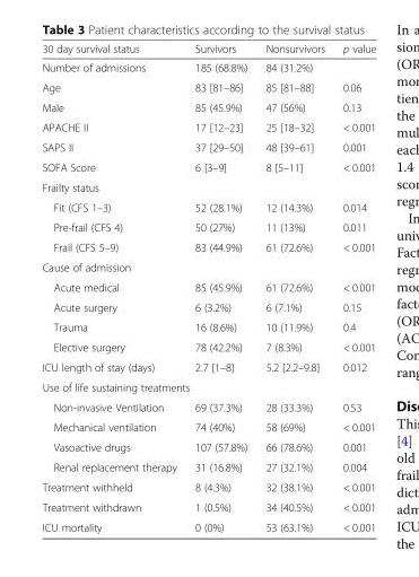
<table><thead><tr><td>30 day survival status</td><td>Survivors</td><td>Nonsurvivors</td><td>p value</td></tr></thead><tbody><tr><td>Number of admissions</td><td>185 (68.8%)</td><td>84 (31.2%)</td><td></td></tr><tr><td>Age</td><td>83 [81–86]</td><td>85 [81–88]</td><td>0.06</td></tr><tr><td>Male</td><td>85 (45.9%)</td><td>47 (56%)</td><td>0.13</td></tr><tr><td>APACHE II</td><td>17 [12–23]</td><td>25 [18–32]</td><td>&lt; 0.001</td></tr><tr><td>SAPS II</td><td>37 [29–50]</td><td>48 [39–61]</td><td>0.001</td></tr><tr><td>SOFA Score</td><td>6 [3–9]</td><td>8 [5–11]</td><td>&lt; 0.001</td></tr><tr><td colspan="4">Frailty status</td></tr><tr><td>Fit (CFS 1–3)</td><td>52 (28.1%)</td><td>12 (14.3%)</td><td>0.014</td></tr><tr><td>Pre-frail (CFS 4)</td><td>50 (27%)</td><td>11 (13%)</td><td>0.011</td></tr><tr><td>Frail (CFS 5–9)</td><td>83 (44.9%)</td><td>61 (72.6%)</td><td>&lt; 0.001</td></tr><tr><td colspan="4">Cause of admission</td></tr><tr><td>Acute medical</td><td>85 (45.9%)</td><td>61 (72.6%)</td><td>&lt; 0.001</td></tr><tr><td>Acute surgery</td><td>6 (3.2%)</td><td>6 (7.1%)</td><td>0.15</td></tr><tr><td>Trauma</td><td>16 (8.6%)</td><td>10 (11.9%)</td><td>0.4</td></tr><tr><td>Elective surgery</td><td>78 (42.2%)</td><td>7 (8.3%)</td><td>&lt; 0.001</td></tr><tr><td>ICU length of stay (days)</td><td>2.7 [1–8]</td><td>5.2 [2.2–9.8]</td><td>0.012</td></tr><tr><td colspan="4">Use of life sustaining treatments</td></tr><tr><td>Non-invasive Ventilation</td><td>69 (37.3%)</td><td>28 (33.3%)</td><td>0.53</td></tr><tr><td>Mechanical ventilation</td><td>74 (40%)</td><td>58 (69%)</td><td>&lt; 0.001</td></tr><tr><td>Vasoactive drugs</td><td>107 (57.8%)</td><td>66 (78.6%)</td><td>0.001</td></tr><tr><td>Renal replacement therapy</td><td>31 (16.8%)</td><td>27 (32.1%)</td><td>0.004</td></tr><tr><td>Treatment withheld</td><td>8 (4.3%)</td><td>32 (38.1%)</td><td>&lt; 0.001</td></tr><tr><td>Treatment withdrawn</td><td>1 (0.5%)</td><td>34 (40.5%)</td><td>&lt; 0.001</td></tr><tr><td>ICU mortality</td><td>0 (0%)</td><td>53 (63.1%)</td><td>&lt; 0.001</td></tr></tbody></table>